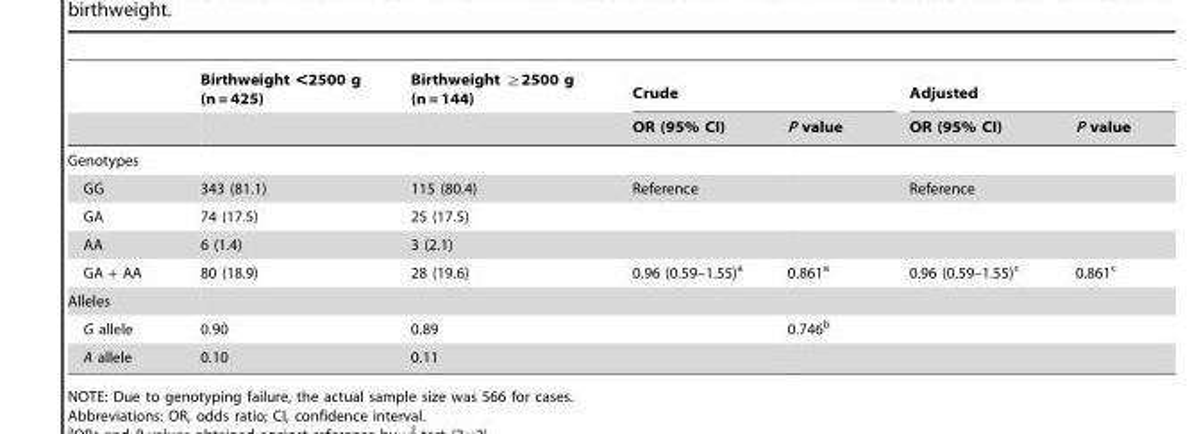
<table><thead><tr><td rowspan="2"></td><td rowspan="2">Birthweight &lt;2500 g (n = 425)</td><td rowspan="2">Birthweight ≧2500 g (n = 144)</td><td colspan="2">Crude</td><td colspan="2">Adjusted</td></tr><tr><td>OR (95% CI)</td><td>P value</td><td>OR (95% CI)</td><td>P value</td></tr></thead><tbody><tr><td colspan="7">Genotypes</td></tr><tr><td>GG</td><td>343 (81.1)</td><td>115 (80.4)</td><td>Reference</td><td></td><td>Reference</td><td></td></tr><tr><td>GA</td><td>74 (17.5)</td><td>25 (17.5)</td><td></td><td></td><td></td><td></td></tr><tr><td>AA</td><td>6 (1.4)</td><td>3 (2.1)</td><td></td><td></td><td></td><td></td></tr><tr><td>GA + AA</td><td>80 (18.9)</td><td>28 (19.6)</td><td>0.96 (0.59–1.55)<sup>a</sup></td><td>0.861<sup>a</sup></td><td>0.96 (0.59–1.55)<sup>c</sup></td><td>0.861<sup>c</sup></td></tr><tr><td colspan="7">Alleles</td></tr><tr><td>G allele</td><td>0.90</td><td>0.89</td><td></td><td>0.746<sup>b</sup></td><td></td><td></td></tr><tr><td>A allele</td><td>0.10</td><td>0.11</td><td></td><td></td><td></td><td></td></tr></tbody></table>